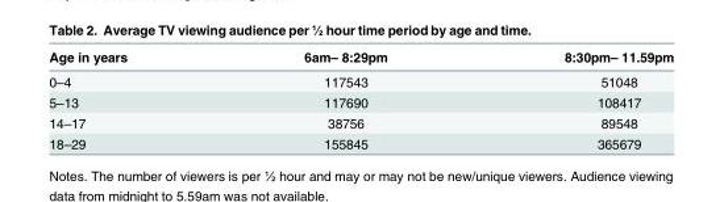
<table><thead><tr><td>Age in years</td><td>6am– 8:29pm</td><td>8:30pm– 11.59pm</td></tr></thead><tbody><tr><td>0–4</td><td>117543</td><td>51048</td></tr><tr><td>5–13</td><td>117690</td><td>108417</td></tr><tr><td>14–17</td><td>38756</td><td>89548</td></tr><tr><td>18–29</td><td>155845</td><td>365679</td></tr></tbody></table>